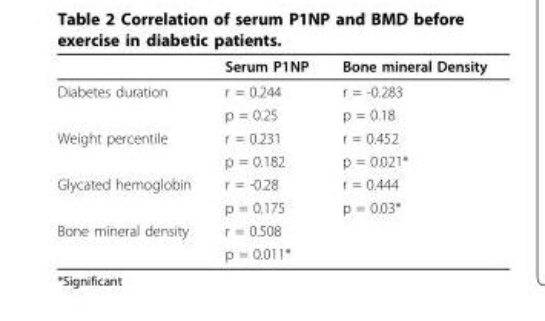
<table><thead><tr><td></td><td>Serum P1NP</td><td>Bone mineral Density</td></tr></thead><tbody><tr><td rowspan="2">Diabetes duration</td><td>r = 0.244</td><td>r = -0.283</td></tr><tr><td>p = 0.25</td><td>p = 0.18</td></tr><tr><td rowspan="2">Weight percentile</td><td>r = 0.231</td><td>r = 0.452</td></tr><tr><td>p = 0.182</td><td>p = 0.021*</td></tr><tr><td rowspan="2">Glycated hemoglobin</td><td>r = -0.28</td><td>r = 0.444</td></tr><tr><td>p = 0.175</td><td>p = 0.03*</td></tr><tr><td rowspan="2">Bone mineral density</td><td>r = 0.508</td><td></td></tr><tr><td>p = 0.011*</td><td></td></tr></tbody></table>